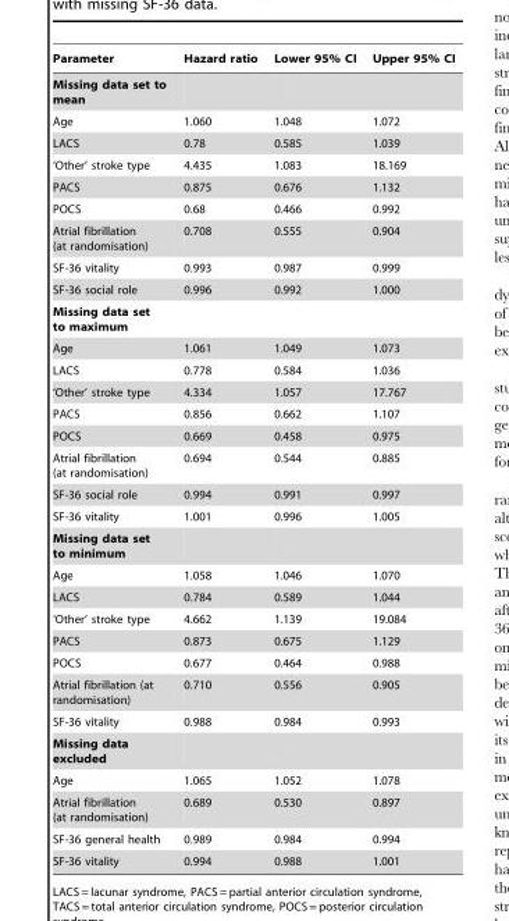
<table><thead><tr><td>Parameter</td><td>Hazard ratio</td><td>Lower 95% CI</td><td>Upper 95% CI</td></tr></thead><tbody><tr><td colspan="4">Missing data set to mean</td></tr><tr><td>Age</td><td>1.060</td><td>1.048</td><td>1.072</td></tr><tr><td>LACS</td><td>0.78</td><td>0.585</td><td>1.039</td></tr><tr><td>‘Other’ stroke type</td><td>4.435</td><td>1.083</td><td>18.169</td></tr><tr><td>PACS</td><td>0.875</td><td>0.676</td><td>1.132</td></tr><tr><td>POCS</td><td>0.68</td><td>0.466</td><td>0.992</td></tr><tr><td>Atrial fibrillation (at randomisation)</td><td>0.708</td><td>0.555</td><td>0.904</td></tr><tr><td>SF-36 vitality</td><td>0.993</td><td>0.987</td><td>0.999</td></tr><tr><td>SF-36 social role</td><td>0.996</td><td>0.992</td><td>1.000</td></tr><tr><td colspan="4">Missing data set to maximum</td></tr><tr><td>Age</td><td>1.061</td><td>1.049</td><td>1.073</td></tr><tr><td>LACS</td><td>0.778</td><td>0.584</td><td>1.036</td></tr><tr><td>‘Other’ stroke type</td><td>4.334</td><td>1.057</td><td>17.767</td></tr><tr><td>PACS</td><td>0.856</td><td>0.662</td><td>1.107</td></tr><tr><td>POCS</td><td>0.669</td><td>0.458</td><td>0.975</td></tr><tr><td>Atrial fibrillation (at randomisation)</td><td>0.694</td><td>0.544</td><td>0.885</td></tr><tr><td>SF-36 social role</td><td>0.994</td><td>0.991</td><td>0.997</td></tr><tr><td>SF-36 vitality</td><td>1.001</td><td>0.996</td><td>1.005</td></tr><tr><td colspan="4">Missing data set to minimum</td></tr><tr><td>Age</td><td>1.058</td><td>1.046</td><td>1.070</td></tr><tr><td>LACS</td><td>0.784</td><td>0.589</td><td>1.044</td></tr><tr><td>‘Other’ stroke type</td><td>4.662</td><td>1.139</td><td>19.084</td></tr><tr><td>PACS</td><td>0.873</td><td>0.675</td><td>1.129</td></tr><tr><td>POCS</td><td>0.677</td><td>0.464</td><td>0.988</td></tr><tr><td>Atrial fibrillation (at randomisation)</td><td>0.710</td><td>0.556</td><td>0.905</td></tr><tr><td>SF-36 vitality</td><td>0.988</td><td>0.984</td><td>0.993</td></tr><tr><td colspan="4">Missing data excluded</td></tr><tr><td>Age</td><td>1.065</td><td>1.052</td><td>1.078</td></tr><tr><td>Atrial fibrillation (at randomisation)</td><td>0.689</td><td>0.530</td><td>0.897</td></tr><tr><td>SF-36 general health</td><td>0.989</td><td>0.984</td><td>0.994</td></tr><tr><td>SF-36 vitality</td><td>0.994</td><td>0.988</td><td>1.001</td></tr></tbody></table>